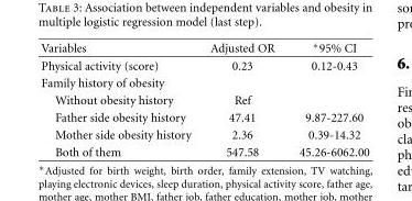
<table><thead><tr><td>Variables</td><td>Adjusted OR</td><td>∗95% CI</td></tr></thead><tbody><tr><td>Physical activity (score)</td><td>0.23</td><td>0.12-0.43</td></tr><tr><td colspan="3">Family history of obesity</td></tr><tr><td>Without obesity history</td><td>Ref</td><td></td></tr><tr><td>Father side obesity history</td><td>47.41</td><td>9.87-227.60</td></tr><tr><td>Mother side obesity history</td><td>2.36</td><td>0.39-14.32</td></tr><tr><td>Both of them</td><td>547.58</td><td>45.26-6062.00</td></tr></tbody></table>